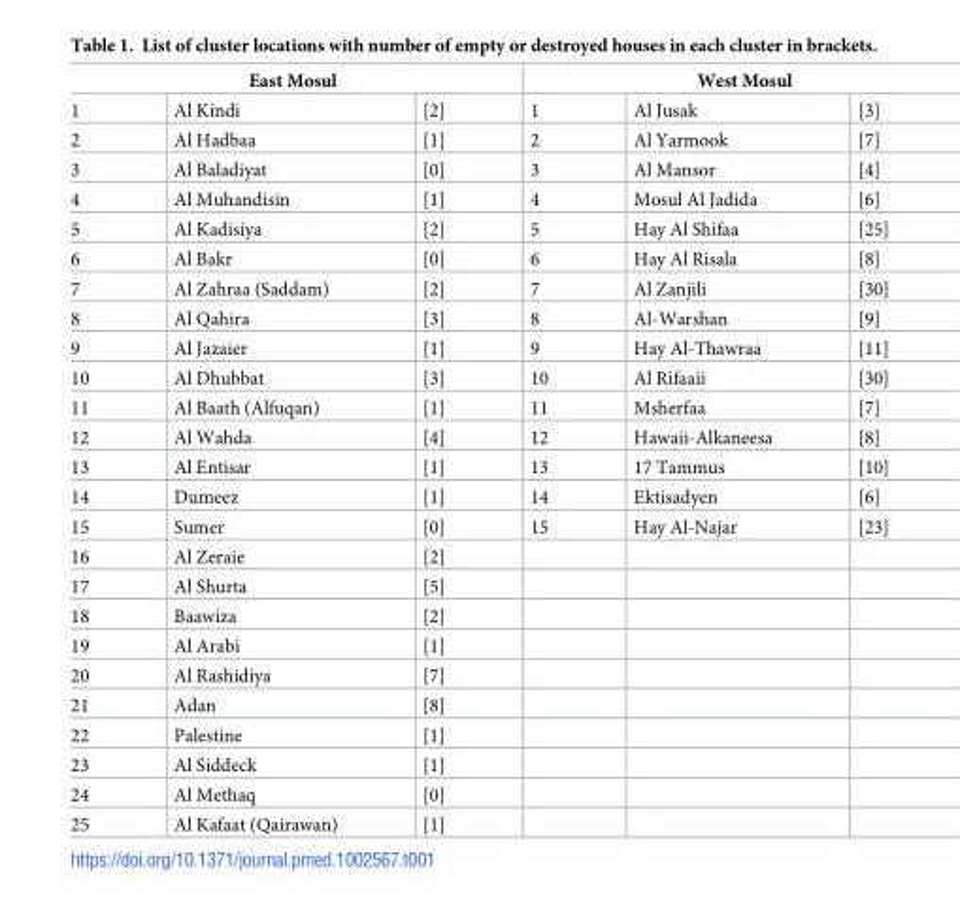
<table><thead><tr><td colspan="3">East Mosul</td><td colspan="3">West Mosul</td></tr><tr><td>1</td><td>Al Kindi</td><td>[2]</td><td>1</td><td>Al Jusak</td><td>[3]</td></tr></thead><tbody><tr><td>2</td><td>Al Hadbaa</td><td>[1]</td><td>2</td><td>Al Yarmook</td><td>[7]</td></tr><tr><td>3</td><td>Al Baladiyat</td><td>[0]</td><td>3</td><td>Al Mansor</td><td>[4]</td></tr><tr><td>4</td><td>Al Muhandisin</td><td>[1]</td><td>4</td><td>Mosul Al Jadida</td><td>[6]</td></tr><tr><td>5</td><td>Al Kadisiya</td><td>[2]</td><td>5</td><td>Hay Al Shifaa</td><td>[25]</td></tr><tr><td>6</td><td>Al Bakr</td><td>[0]</td><td>6</td><td>Hay Al Risala</td><td>[8]</td></tr><tr><td>7</td><td>Al Zahraa (Saddam)</td><td>[2]</td><td>7</td><td>Al Zanjili</td><td>[30]</td></tr><tr><td>8</td><td>Al Qahira</td><td>[3]</td><td>8</td><td>Al-Warshan</td><td>[9]</td></tr><tr><td>9</td><td>Al Jazaier</td><td>[1]</td><td>9</td><td>Hay Al-Thawraa</td><td>[11]</td></tr><tr><td>10</td><td>Al Dhubbat</td><td>[3]</td><td>10</td><td>Al Rifaaii</td><td>[30]</td></tr><tr><td>11</td><td>Al Baath (Alfuqan)</td><td>[1]</td><td>11</td><td>Msherfaa</td><td>[7]</td></tr><tr><td>12</td><td>Al Wahda</td><td>[4]</td><td>12</td><td>Hawaii-Alkaneesa</td><td>[8]</td></tr><tr><td>13</td><td>Al Entisar</td><td>[1]</td><td>13</td><td>17 Tammus</td><td>[10]</td></tr><tr><td>14</td><td>Dumeez</td><td>[1]</td><td>14</td><td>Ektisadyen</td><td>[6]</td></tr><tr><td>15</td><td>Sumer</td><td>[0]</td><td>15</td><td>Hay Al-Najar</td><td>[23]</td></tr><tr><td>16</td><td>Al Zeraie</td><td>[2]</td><td></td><td></td><td></td></tr><tr><td>17</td><td>Al Shurta</td><td>[5]</td><td></td><td></td><td></td></tr><tr><td>18</td><td>Baawiza</td><td>[2]</td><td></td><td></td><td></td></tr><tr><td>19</td><td>Al Arabi</td><td>[1]</td><td></td><td></td><td></td></tr><tr><td>20</td><td>Al Rashidiya</td><td>[7]</td><td></td><td></td><td></td></tr><tr><td>21</td><td>Adan</td><td>[8]</td><td></td><td></td><td></td></tr><tr><td>22</td><td>Palestine</td><td>[1]</td><td></td><td></td><td></td></tr><tr><td>23</td><td>Al Siddeck</td><td>[1]</td><td></td><td></td><td></td></tr><tr><td>24</td><td>Al Methaq</td><td>[0]</td><td></td><td></td><td></td></tr><tr><td>25</td><td>Al Kafaat (Qairawan)</td><td>[1]</td><td></td><td></td><td></td></tr></tbody></table>